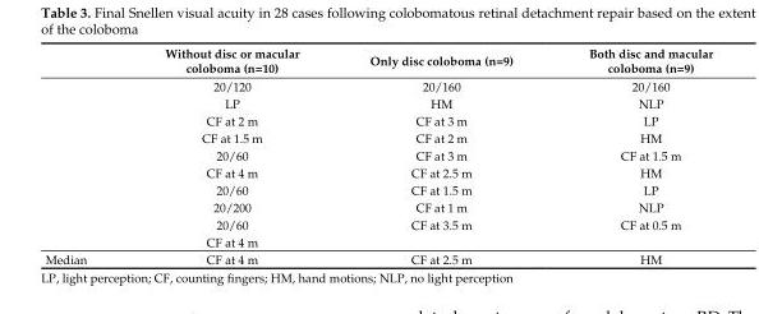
<table><thead><tr><td></td><td>without disc or macular coloboma (n=10)</td><td>Only disc coloboma (n=9)</td><td>Both disc and macular coloboma (n=9)</td></tr></thead><tbody><tr><td></td><td>20/120</td><td>20/160</td><td>20/160</td></tr><tr><td></td><td>LP</td><td>HM</td><td>NLP</td></tr><tr><td></td><td>CF at 2 m</td><td>CF at 3 m</td><td>LP</td></tr><tr><td></td><td>CF at 1.5 m</td><td>CF at 2 m</td><td>HM</td></tr><tr><td></td><td>20/60</td><td>CF at 3 m</td><td>CF at 1.5 m</td></tr><tr><td></td><td>CF at 4 m</td><td>CF at 2.5 m</td><td>HM</td></tr><tr><td></td><td>20/60</td><td>CF at 1.5 m</td><td>LP</td></tr><tr><td></td><td>20/200</td><td>CF at 1 m</td><td>NLP</td></tr><tr><td></td><td>20/60</td><td>CF at 3.5 m</td><td>CF at 0.5 m</td></tr><tr><td></td><td>CF at 4 m</td><td></td><td></td></tr><tr><td>Median</td><td>CF at 4 m</td><td>CF at 2.5 m</td><td>HM</td></tr></tbody></table>